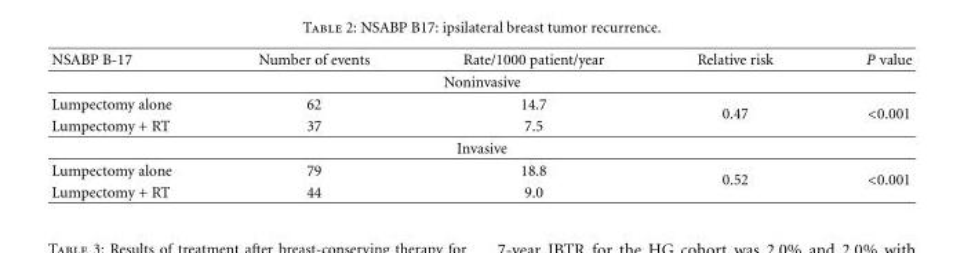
<table><thead><tr><td>NSABP B-17</td><td>Number of events</td><td>Rate/1000 patient/year</td><td>Relative risk</td><td>P value</td></tr></thead><tbody><tr><td colspan="5">Noninvasive</td></tr><tr><td>Lumpectomy alone</td><td>62</td><td>14.7</td><td rowspan="2">0.47</td><td rowspan="2">&lt;0.001</td></tr><tr><td>Lumpectomy + RT</td><td>37</td><td>7.5</td></tr><tr><td colspan="5">Invasive</td></tr><tr><td>Lumpectomy alone</td><td>79</td><td>18.8</td><td rowspan="2">0.52</td><td rowspan="2">&lt;0.001</td></tr><tr><td>Lumpectomy + RT</td><td>44</td><td>9.0</td></tr></tbody></table>